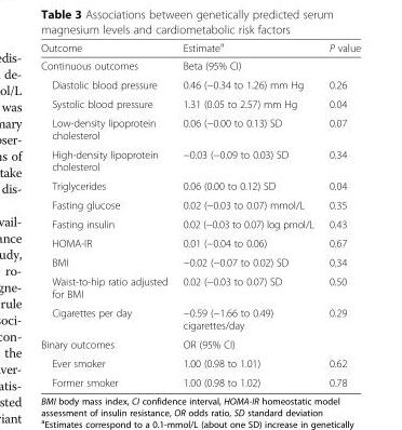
<table><thead><tr><td>Outcome</td><td>Estimate<sup>a</sup></td><td>P value</td></tr></thead><tbody><tr><td>Continuous outcomes</td><td>Beta (95% CI)</td><td></td></tr><tr><td>Diastolic blood pressure</td><td>0.46 (−0.34 to 1.26) mm Hg</td><td>0.26</td></tr><tr><td>Systolic blood pressure</td><td>1.31 (0.05 to 2.57) mm Hg</td><td>0.04</td></tr><tr><td>Low-density lipoprotein cholesterol</td><td>0.06 (−0.00 to 0.13) SD</td><td>0.07</td></tr><tr><td>High-density lipoprotein cholesterol</td><td>−0.03 (−0.09 to 0.03) SD</td><td>0.34</td></tr><tr><td>Triglycerides</td><td>0.06 (0.00 to 0.12) SD</td><td>0.04</td></tr><tr><td>Fasting glucose</td><td>0.02 (−0.03 to 0.07) mmol/L</td><td>0.35</td></tr><tr><td>Fasting insulin</td><td>0.02 (−0.03 to 0.07) log pmol/L</td><td>0.43</td></tr><tr><td>HOMA-IR</td><td>0.01 (−0.04 to 0.06)</td><td>0.67</td></tr><tr><td>BMI</td><td>−0.02 (−0.07 to 0.02) SD</td><td>0.34</td></tr><tr><td>Waist-to-hip ratio adjusted for BMI</td><td>0.02 (−0.03 to 0.07) SD</td><td>0.50</td></tr><tr><td>Cigarettes per day</td><td>−0.59 (−1.66 to 0.49) cigarettes/day</td><td>0.29</td></tr><tr><td>Binary outcomes</td><td>OR (95% CI)</td><td></td></tr><tr><td>Ever smoker</td><td>1.00 (0.98 to 1.01)</td><td>0.62</td></tr><tr><td>Former smoker</td><td>1.00 (0.98 to 1.02)</td><td>0.78</td></tr></tbody></table>